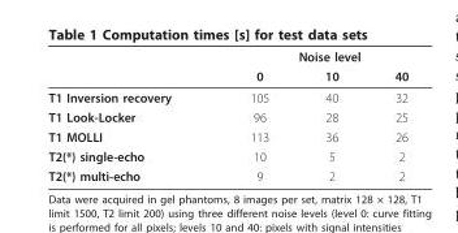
<table><thead><tr><td rowspan="2"></td><td colspan="3">Noise level</td></tr><tr><td>0</td><td>10</td><td>40</td></tr></thead><tbody><tr><td>T1 Inversion recovery</td><td>105</td><td>40</td><td>32</td></tr><tr><td>T1 Look-Locker</td><td>96</td><td>28</td><td>25</td></tr><tr><td>T1 MOLLI</td><td>113</td><td>36</td><td>26</td></tr><tr><td>T2(*) single-echo</td><td>10</td><td>5</td><td>2</td></tr><tr><td>T2(*) multi-echo</td><td>9</td><td>2</td><td>2</td></tr></tbody></table>